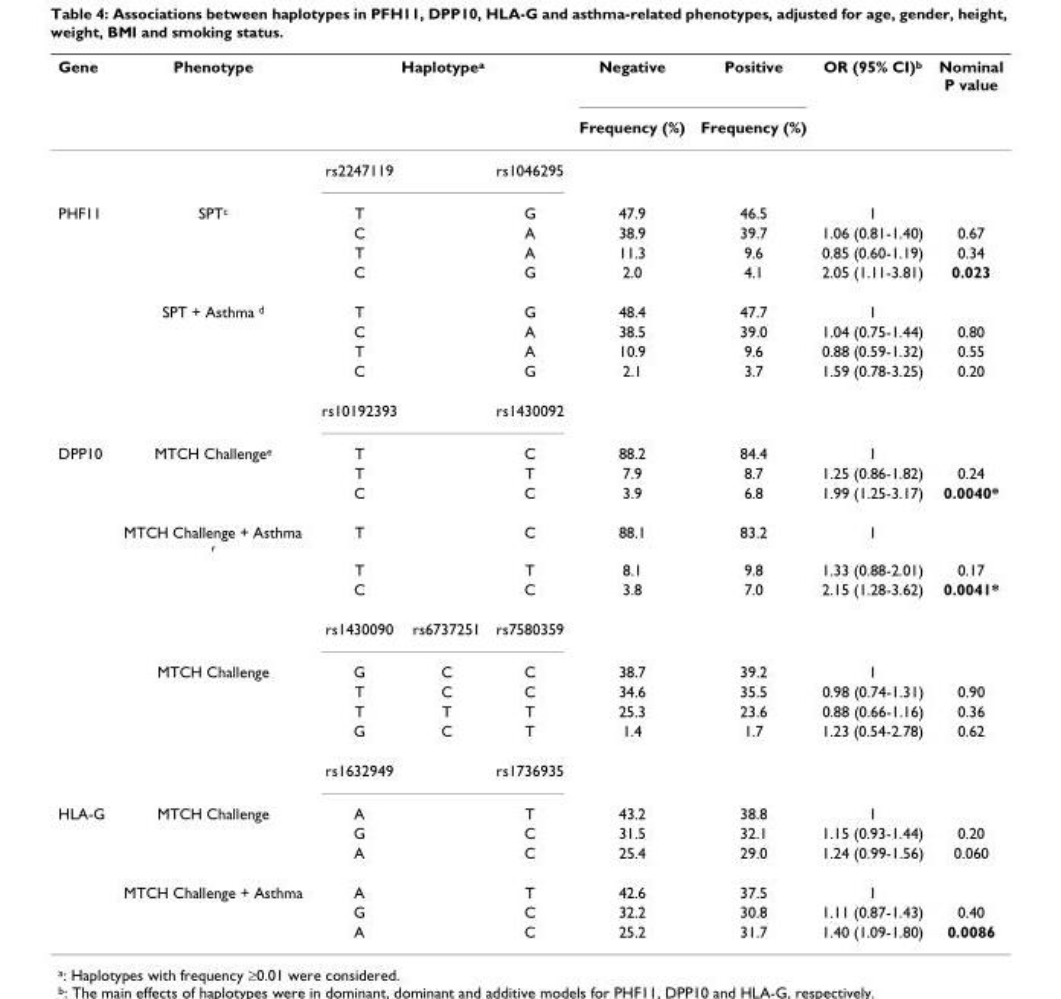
<table><thead><tr><td rowspan="2">Gene</td><td rowspan="2">Phenotype</td><td colspan="3">Haplotype<sup>a</sup></td><td rowspan="2">Negative Frequency (%)</td><td rowspan="2">Positive Frequency (%)</td><td rowspan="2">OR (95% CI)<sup>b</sup></td><td rowspan="2">Nominal P value</td></tr><tr><td></td><td></td><td></td></tr></thead><tbody><tr><td></td><td></td><td>rs2247119</td><td></td><td>rs1046295</td><td></td><td></td><td></td><td></td></tr><tr><td rowspan="9">PHF11</td><td>SPT<sup>c</sup></td><td>T</td><td></td><td>G</td><td>47.9</td><td>46.5</td><td>1</td><td></td></tr><tr><td></td><td>C</td><td></td><td>A</td><td>38.9</td><td>39.7</td><td>1.06 (0.81-1.40)</td><td>0.67</td></tr><tr><td></td><td>T</td><td></td><td>A</td><td>11.3</td><td>9.6</td><td>0.85 (0.60-1.19)</td><td>0.34</td></tr><tr><td></td><td>C</td><td></td><td>G</td><td>2.0</td><td>4.1</td><td>2.05 (1.11-3.81)</td><td>0.023</td></tr><tr><td>SPT + Asthma <sup>d</sup></td><td>T</td><td></td><td>G</td><td>48.4</td><td>47.7</td><td>1</td><td></td></tr><tr><td></td><td>C</td><td></td><td>A</td><td>38.5</td><td>39.0</td><td>1.04 (0.75-1.44)</td><td>0.80</td></tr><tr><td></td><td>T</td><td></td><td>A</td><td>10.9</td><td>9.6</td><td>0.88 (0.59-1.32)</td><td>0.55</td></tr><tr><td></td><td>C</td><td></td><td>G</td><td>2.1</td><td>3.7</td><td>1.59 (0.78-3.25)</td><td>0.20</td></tr><tr><td></td><td>rs10192393</td><td></td><td>rs1430092</td><td></td><td></td><td></td><td></td></tr><tr><td rowspan="12">DPP10</td><td>MTCH Challenge<sup>e</sup></td><td>T</td><td></td><td>C</td><td>88.2</td><td>84.4</td><td>1</td><td></td></tr><tr><td></td><td>T</td><td></td><td>T</td><td>7.9</td><td>8.7</td><td>1.25 (0.86-1.82)</td><td>0.24</td></tr><tr><td></td><td>C</td><td></td><td>C</td><td>3.9</td><td>6.8</td><td>1.99 (1.25-3.17)</td><td>0.0040*</td></tr><tr><td>MTCH Challenge + Asthma <sup>r</sup></td><td>T</td><td></td><td>C</td><td>88.1</td><td>83.2</td><td>1</td><td></td></tr><tr><td></td><td>T</td><td></td><td>T</td><td>8.1</td><td>9.8</td><td>1.33 (0.88-2.01)</td><td>0.17</td></tr><tr><td></td><td>C</td><td></td><td>C</td><td>3.8</td><td>7.0</td><td>2.15 (1.28-3.62)</td><td>0.0041*</td></tr><tr><td></td><td>rs1430090</td><td>rs6737251</td><td>rs7580359</td><td></td><td></td><td></td><td></td></tr><tr><td>MTCH Challenge</td><td>G</td><td>C</td><td>C</td><td>38.7</td><td>39.2</td><td>1</td><td></td></tr><tr><td></td><td>T</td><td>C</td><td>C</td><td>34.6</td><td>35.5</td><td>0.98 (0.74-1.31)</td><td>0.90</td></tr><tr><td></td><td>T</td><td>T</td><td>T</td><td>25.3</td><td>23.6</td><td>0.88 (0.66-1.16)</td><td>0.36</td></tr><tr><td></td><td>G</td><td>C</td><td>T</td><td>1.4</td><td>1.7</td><td>1.23 (0.54-2.78)</td><td>0.62</td></tr><tr><td></td><td>rs1632949</td><td></td><td>rs1736935</td><td></td><td></td><td></td><td></td></tr><tr><td rowspan="6">HLA-G</td><td>MTCH Challenge</td><td>A</td><td></td><td>T</td><td>43.2</td><td>38.8</td><td>1</td><td></td></tr><tr><td></td><td>G</td><td></td><td>C</td><td>31.5</td><td>32.1</td><td>1.15 (0.93-1.44)</td><td>0.20</td></tr><tr><td></td><td>A</td><td></td><td>C</td><td>25.4</td><td>29.0</td><td>1.24 (0.99-1.56)</td><td>0.060</td></tr><tr><td>MTCH Challenge + Asthma</td><td>A</td><td></td><td>T</td><td>42.6</td><td>37.5</td><td>1</td><td></td></tr><tr><td></td><td>G</td><td></td><td>C</td><td>32.2</td><td>30.8</td><td>1.11 (0.87-1.43)</td><td>0.40</td></tr><tr><td></td><td>A</td><td></td><td>C</td><td>25.2</td><td>31.7</td><td>1.40 (1.09-1.80)</td><td>0.0086</td></tr></tbody></table>